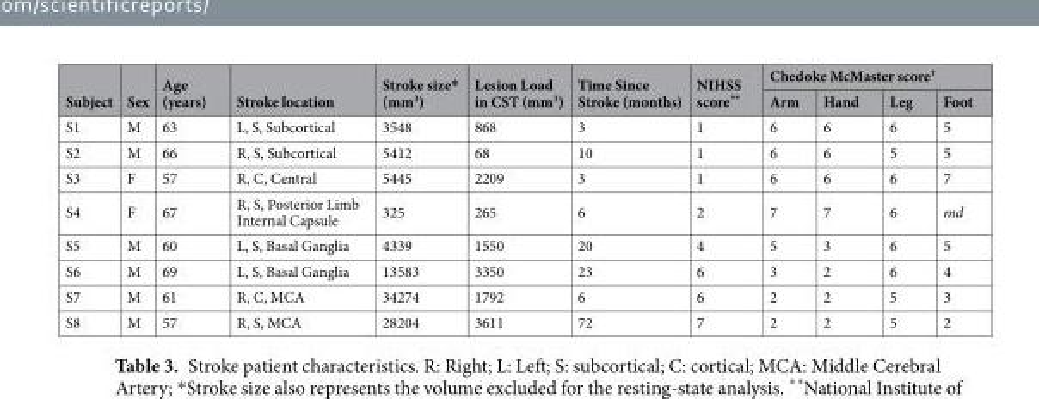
<table><thead><tr><td rowspan="2">Subject</td><td rowspan="2">Sex</td><td rowspan="2">Age (years)</td><td rowspan="2">Stroke location</td><td rowspan="2">Stroke size* (mm<sup>3</sup>)</td><td rowspan="2">Lesion Load in CST (mm<sup>3</sup>)</td><td rowspan="2">Time Since Stroke (months)</td><td rowspan="2">NIHSS score**</td><td colspan="4">Chedoke McMaster score<sup>†</sup></td></tr><tr><td>Arm</td><td>Hand</td><td>Leg</td><td>Foot</td></tr></thead><tbody><tr><td>S1</td><td>M</td><td>63</td><td>L, S, Subcortical</td><td>3548</td><td>868</td><td>3</td><td>1</td><td>6</td><td>6</td><td>6</td><td>5</td></tr><tr><td>S2</td><td>M</td><td>66</td><td>R, S, Subcortical</td><td>5412</td><td>68</td><td>10</td><td>1</td><td>6</td><td>6</td><td>5</td><td>5</td></tr><tr><td>S3</td><td>F</td><td>57</td><td>R, C, Central</td><td>5445</td><td>2209</td><td>3</td><td>1</td><td>6</td><td>6</td><td>6</td><td>7</td></tr><tr><td>S4</td><td>F</td><td>67</td><td>R, S, Posterior Limb Internal Capsule</td><td>325</td><td>265</td><td>6</td><td>2</td><td>7</td><td>7</td><td>6</td><td>md</td></tr><tr><td>S5</td><td>M</td><td>60</td><td>L, S, Basal Ganglia</td><td>4339</td><td>1550</td><td>20</td><td>4</td><td>5</td><td>3</td><td>6</td><td>5</td></tr><tr><td>S6</td><td>M</td><td>69</td><td>L, S, Basal Ganglia</td><td>13583</td><td>3350</td><td>23</td><td>6</td><td>3</td><td>2</td><td>6</td><td>4</td></tr><tr><td>S7</td><td>M</td><td>61</td><td>R, C, MCA</td><td>34274</td><td>1792</td><td>6</td><td>6</td><td>2</td><td>2</td><td>5</td><td>3</td></tr><tr><td>S8</td><td>M</td><td>57</td><td>R, S, MCA</td><td>28204</td><td>3611</td><td>72</td><td>7</td><td>2</td><td>2</td><td>5</td><td>2</td></tr></tbody></table>